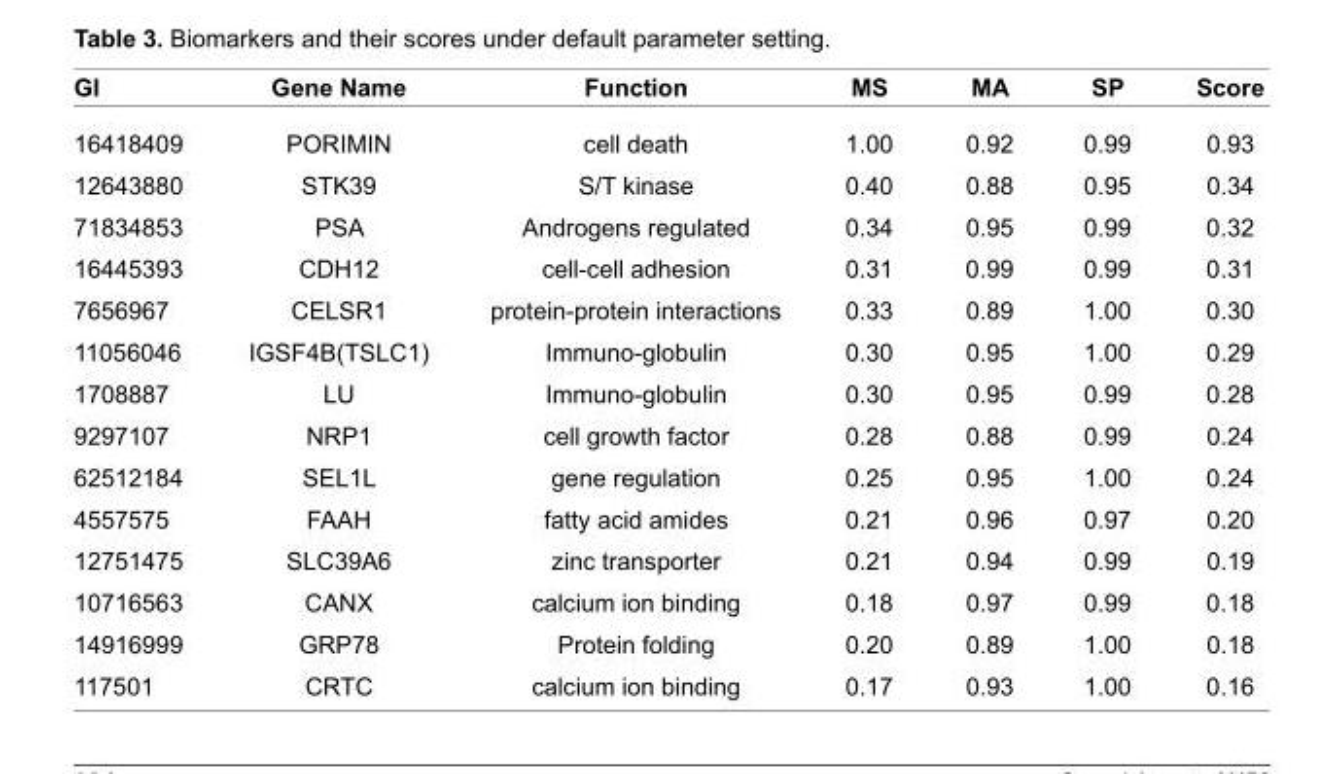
<table><thead><tr><td>GI</td><td>Gene Name</td><td>Function</td><td>MS</td><td>MA</td><td>SP</td><td>Score</td></tr></thead><tbody><tr><td>16418409</td><td>PORIMIN</td><td>cell death</td><td>1.00</td><td>0.92</td><td>0.99</td><td>0.93</td></tr><tr><td>12643880</td><td>STK39</td><td>S/T kinase</td><td>0.40</td><td>0.88</td><td>0.95</td><td>0.34</td></tr><tr><td>71834853</td><td>PSA</td><td>Androgens regulated</td><td>0.34</td><td>0.95</td><td>0.99</td><td>0.32</td></tr><tr><td>16445393</td><td>CDH12</td><td>cell-cell adhesion</td><td>0.31</td><td>0.99</td><td>0.99</td><td>0.31</td></tr><tr><td>7656967</td><td>CELSR1</td><td>protein-protein interactions</td><td>0.33</td><td>0.89</td><td>1.00</td><td>0.30</td></tr><tr><td>11056046</td><td>IGSF4B(TSLC1)</td><td>Immuno-globulin</td><td>0.30</td><td>0.95</td><td>1.00</td><td>0.29</td></tr><tr><td>1708887</td><td>LU</td><td>Immuno-globulin</td><td>0.30</td><td>0.95</td><td>0.99</td><td>0.28</td></tr><tr><td>9297107</td><td>NRP1</td><td>cell growth factor</td><td>0.28</td><td>0.88</td><td>0.99</td><td>0.24</td></tr><tr><td>62512184</td><td>SEL1L</td><td>gene regulation</td><td>0.25</td><td>0.95</td><td>1.00</td><td>0.24</td></tr><tr><td>4557575</td><td>FAAH</td><td>fatty acid amides</td><td>0.21</td><td>0.96</td><td>0.97</td><td>0.20</td></tr><tr><td>12751475</td><td>SLC39A6</td><td>zinc transporter</td><td>0.21</td><td>0.94</td><td>0.99</td><td>0.19</td></tr><tr><td>10716563</td><td>CANX</td><td>calcium ion binding</td><td>0.18</td><td>0.97</td><td>0.99</td><td>0.18</td></tr><tr><td>14916999</td><td>GRP78</td><td>Protein folding</td><td>0.20</td><td>0.89</td><td>1.00</td><td>0.18</td></tr><tr><td>117501</td><td>CRTC</td><td>calcium ion binding</td><td>0.17</td><td>0.93</td><td>1.00</td><td>0.16</td></tr></tbody></table>